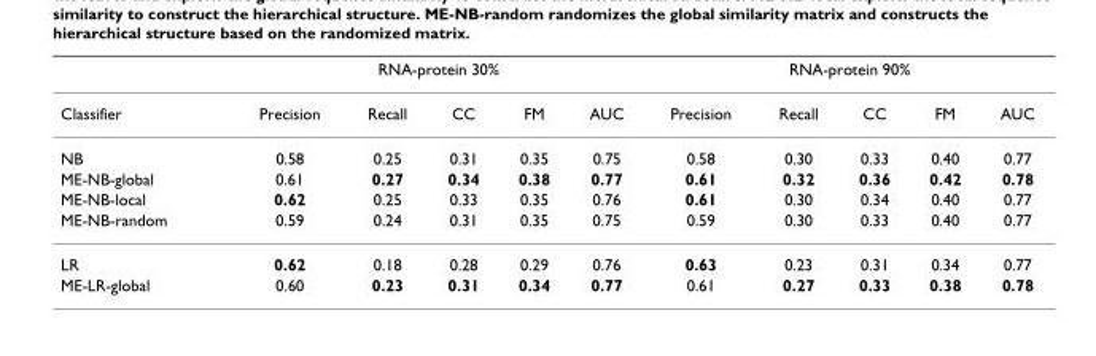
<table><thead><tr><td rowspan="2">Classifier</td><td colspan="5">RNA-protein 30%</td><td colspan="5">RNA-protein 90%</td></tr><tr><td>Precision</td><td>Recall</td><td>CC</td><td>FM</td><td>AUC</td><td>Precision</td><td>Recall</td><td>CC</td><td>FM</td><td>AUC</td></tr></thead><tbody><tr><td>NB</td><td>0.58</td><td>0.25</td><td>0.31</td><td>0.35</td><td>0.75</td><td>0.58</td><td>0.30</td><td>0.33</td><td>0.40</td><td>0.77</td></tr><tr><td>ME-NB-global</td><td>0.61</td><td>0.27</td><td>0.34</td><td>0.38</td><td>0.77</td><td>0.61</td><td>0.32</td><td>0.36</td><td>0.42</td><td>0.78</td></tr><tr><td>ME-NB-local</td><td>0.62</td><td>0.25</td><td>0.33</td><td>0.35</td><td>0.76</td><td>0.61</td><td>0.30</td><td>0.34</td><td>0.40</td><td>0.77</td></tr><tr><td>ME-NB-random</td><td>0.59</td><td>0.24</td><td>0.31</td><td>0.35</td><td>0.75</td><td>0.59</td><td>0.30</td><td>0.33</td><td>0.40</td><td>0.77</td></tr><tr><td>LR</td><td>0.62</td><td>0.18</td><td>0.28</td><td>0.29</td><td>0.76</td><td>0.63</td><td>0.23</td><td>0.31</td><td>0.34</td><td>0.77</td></tr><tr><td>ME-LR-global</td><td>0.60</td><td>0.23</td><td>0.31</td><td>0.34</td><td>0.77</td><td>0.61</td><td>0.27</td><td>0.33</td><td>0.38</td><td>0.78</td></tr></tbody></table>